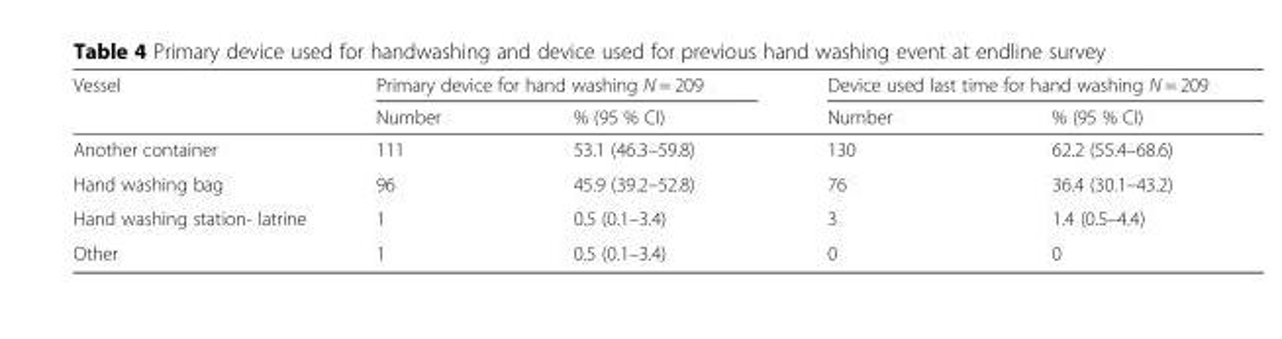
<table><thead><tr><td rowspan="2">Vessel</td><td colspan="2">Primary device for hand washing N = 209</td><td colspan="2">Device used last time for hand washing N = 209</td></tr><tr><td>Number</td><td>% (95 % CI)</td><td>Number</td><td>% (95 % CI)</td></tr></thead><tbody><tr><td>Another container</td><td>111</td><td>53.1 (46.3–59.8)</td><td>130</td><td>62.2 (55.4–68.6)</td></tr><tr><td>Hand washing bag</td><td>96</td><td>45.9 (39.2–52.8)</td><td>76</td><td>36.4 (30.1–43.2)</td></tr><tr><td>Hand washing station- latrine</td><td>1</td><td>0.5 (0.1–3.4)</td><td>3</td><td>1.4 (0.5–4.4)</td></tr><tr><td>Other</td><td>1</td><td>0.5 (0.1–3.4)</td><td>0</td><td>0</td></tr></tbody></table>